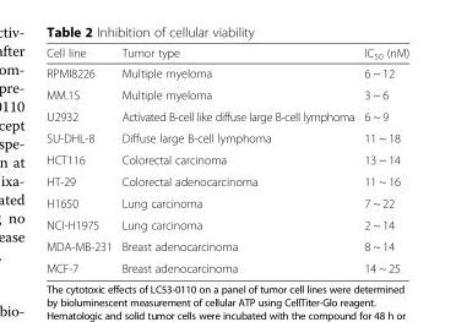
<table><thead><tr><td>Cell line</td><td>Tumor type</td><td>IC<sub>50</sub> (nM)</td></tr></thead><tbody><tr><td>RPMI8226</td><td>Multiple myeloma</td><td>6 ~ 12</td></tr><tr><td>MM.1S</td><td>Multiple myeloma</td><td>3 ~ 6</td></tr><tr><td>U2932</td><td>Activated B-cell like diffuse large B-cell lymphoma</td><td>6 ~ 9</td></tr><tr><td>SU-DHL-8</td><td>Diffuse large B-cell lymphoma</td><td>11 ~ 18</td></tr><tr><td>HCT116</td><td>Colorectal carcinoma</td><td>13 ~ 14</td></tr><tr><td>HT-29</td><td>Colorectal adenocarcinoma</td><td>11 ~ 16</td></tr><tr><td>H1650</td><td>Lung carcinoma</td><td>7 ~ 22</td></tr><tr><td>NCI-H1975</td><td>Lung carcinoma</td><td>2 ~ 14</td></tr><tr><td>MDA-MB-231</td><td>Breast adenocarcinoma</td><td>8 ~ 14</td></tr><tr><td>MCF-7</td><td>Breast adenocarcinoma</td><td>14 ~ 25</td></tr></tbody></table>